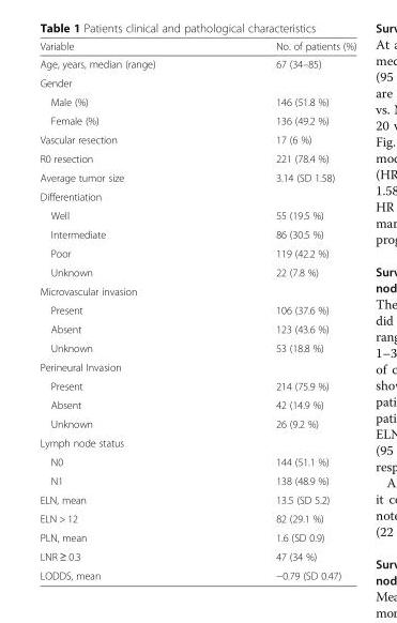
<table><thead><tr><td>Variable</td><td>No. of patients (%)</td></tr></thead><tbody><tr><td>Age, years, median (range)</td><td>67 (34–85)</td></tr><tr><td colspan="2">Gender</td></tr><tr><td>Male (%)</td><td>146 (51.8 %)</td></tr><tr><td>Female (%)</td><td>136 (49.2 %)</td></tr><tr><td>Vascular resection</td><td>17 (6 %)</td></tr><tr><td>R0 resection</td><td>221 (78.4 %)</td></tr><tr><td>Average tumor size</td><td>3.14 (SD 1.58)</td></tr><tr><td colspan="2">Differentiation</td></tr><tr><td>Well</td><td>55 (19.5 %)</td></tr><tr><td>Intermediate</td><td>86 (30.5 %)</td></tr><tr><td>Poor</td><td>119 (42.2 %)</td></tr><tr><td>Unknown</td><td>22 (7.8 %)</td></tr><tr><td colspan="2">Microvascular invasion</td></tr><tr><td>Present</td><td>106 (37.6 %)</td></tr><tr><td>Absent</td><td>123 (43.6 %)</td></tr><tr><td>Unknown</td><td>53 (18.8 %)</td></tr><tr><td colspan="2">Perineural Invasion</td></tr><tr><td>Present</td><td>214 (75.9 %)</td></tr><tr><td>Absent</td><td>42 (14.9 %)</td></tr><tr><td>Unknown</td><td>26 (9.2 %)</td></tr><tr><td colspan="2">Lymph node status</td></tr><tr><td>N0</td><td>144 (51.1 %)</td></tr><tr><td>N1</td><td>138 (48.9 %)</td></tr><tr><td>ELN, mean</td><td>13.5 (SD 5.2)</td></tr><tr><td>ELN &gt; 12</td><td>82 (29.1 %)</td></tr><tr><td>PLN, mean</td><td>1.6 (SD 0.9)</td></tr><tr><td>LNR ≥ 0.3</td><td>47 (34 %)</td></tr><tr><td>LODDS, mean</td><td>−0.79 (SD 0.47)</td></tr></tbody></table>